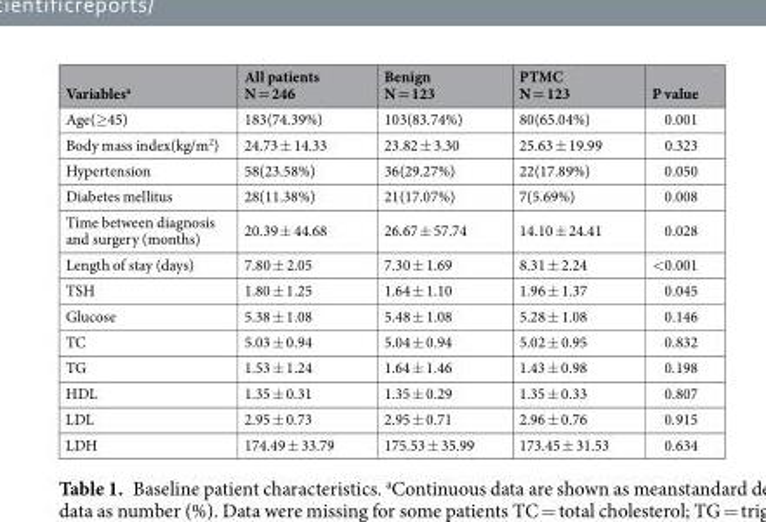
<table><thead><tr><td>Variables<sup>a</sup></td><td>All patients N = 246</td><td>Benign N = 123</td><td>PTMC N = 123</td><td>P value</td></tr></thead><tbody><tr><td>Age(≥45)</td><td>183(74.39%)</td><td>103(83.74%)</td><td>80(65.04%)</td><td>0.001</td></tr><tr><td>Body mass index(kg/m<sup>2</sup>)</td><td>24.73 ± 14.33</td><td>23.82 ± 3.30</td><td>25.63 ± 19.99</td><td>0.323</td></tr><tr><td>Hypertension</td><td>58(23.58%)</td><td>36(29.27%)</td><td>22(17.89%)</td><td>0.050</td></tr><tr><td>Diabetes mellitus</td><td>28(11.38%)</td><td>21(17.07%)</td><td>7(5.69%)</td><td>0.008</td></tr><tr><td>Time between diagnosis and surgery (months)</td><td>20.39 ± 44.68</td><td>26.67 ± 57.74</td><td>14.10 ± 24.41</td><td>0.028</td></tr><tr><td>Length of stay (days)</td><td>7.80 ± 2.05</td><td>7.30 ± 1.69</td><td>8.31 ± 2.24</td><td>&lt;0.001</td></tr><tr><td>TSH</td><td>1.80 ± 1.25</td><td>1.64 ± 1.10</td><td>1.96 ± 1.37</td><td>0.045</td></tr><tr><td>Glucose</td><td>5.38 ± 1.08</td><td>5.48 ± 1.08</td><td>5.28 ± 1.08</td><td>0.146</td></tr><tr><td>TC</td><td>5.03 ± 0.94</td><td>5.04 ± 0.94</td><td>5.02 ± 0.95</td><td>0.832</td></tr><tr><td>TG</td><td>1.53 ± 1.24</td><td>1.64 ± 1.46</td><td>1.43 ± 0.98</td><td>0.198</td></tr><tr><td>HDL</td><td>1.35 ± 0.31</td><td>1.35 ± 0.29</td><td>1.35 ± 0.33</td><td>0.807</td></tr><tr><td>LDL</td><td>2.95 ± 0.73</td><td>2.95 ± 0.71</td><td>2.96 ± 0.76</td><td>0.915</td></tr><tr><td>LDH</td><td>174.49 ± 33.79</td><td>175.53 ± 35.99</td><td>173.45 ± 31.53</td><td>0.634</td></tr></tbody></table>